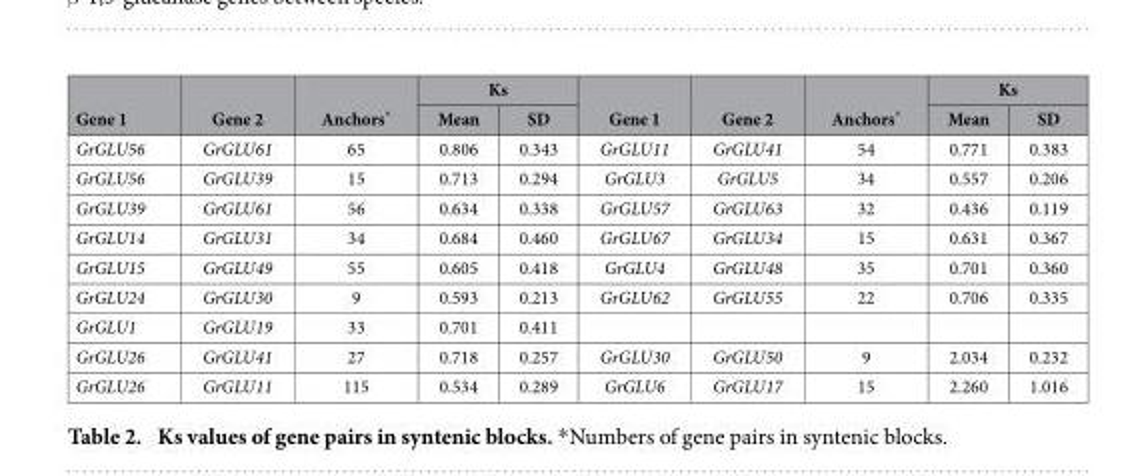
<table><thead><tr><td rowspan="2">Gene 1</td><td rowspan="2">Gene 2</td><td rowspan="2">Anchors*</td><td colspan="2">Ks</td><td rowspan="2">Gene 1</td><td rowspan="2">Gene 2</td><td rowspan="2">Anchors*</td><td colspan="2">Ks</td></tr><tr><td>Mean</td><td>SD</td><td>Mean</td><td>SD</td></tr></thead><tbody><tr><td>GrGLU56</td><td>GrGLU61</td><td>65</td><td>0.806</td><td>0.343</td><td>GrGLU11</td><td>GrGLU41</td><td>54</td><td>0.771</td><td>0.383</td></tr><tr><td>GrGLU56</td><td>GrGLU39</td><td>15</td><td>0.713</td><td>0.294</td><td>GrGLU3</td><td>GrGLU5</td><td>34</td><td>0.557</td><td>0.206</td></tr><tr><td>GrGLU39</td><td>GrGLU61</td><td>56</td><td>0.634</td><td>0.338</td><td>GrGLU57</td><td>GrGLU63</td><td>32</td><td>0.436</td><td>0.119</td></tr><tr><td>GrGLU14</td><td>GrGLU31</td><td>34</td><td>0.684</td><td>0.460</td><td>GrGLU67</td><td>GrGLU34</td><td>15</td><td>0.631</td><td>0.367</td></tr><tr><td>GrGLU15</td><td>GrGLU49</td><td>55</td><td>0.605</td><td>0.418</td><td>GrGLU4</td><td>GrGLU48</td><td>35</td><td>0.701</td><td>0.360</td></tr><tr><td>GrGLU24</td><td>GrGLU30</td><td>9</td><td>0.593</td><td>0.213</td><td>GrGLU62</td><td>GrGLU55</td><td>22</td><td>0.706</td><td>0.335</td></tr><tr><td>GrGLU1</td><td>GrGLU19</td><td>33</td><td>0.701</td><td>0.411</td><td></td><td></td><td></td><td></td><td></td></tr><tr><td>GrGLU26</td><td>GrGLU41</td><td>27</td><td>0.718</td><td>0.257</td><td>GrGLU30</td><td>GrGLU50</td><td>9</td><td>2.034</td><td>0.232</td></tr><tr><td>GrGLU26</td><td>GrGLU11</td><td>115</td><td>0.534</td><td>0.289</td><td>GrGLU6</td><td>GrGLU17</td><td>15</td><td>2.260</td><td>1.016</td></tr></tbody></table>